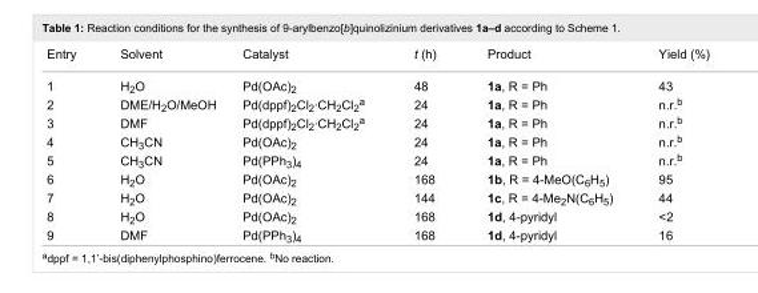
<table><tbody><tr><td>Entry</td><td>Solvent</td><td>Catalyst</td><td>t (h)</td><td>Product</td><td>Yield (%)</td></tr><tr><td>1</td><td>H<sub>2</sub>O</td><td>Pd(OAc)<sub>2</sub></td><td>48</td><td>1a, R = Ph</td><td>43</td></tr><tr><td>2</td><td>DME/H<sub>2</sub>O/MeOH</td><td>Pd(dppf)<sub>2</sub>Cl<sub>2</sub>·CH<sub>2</sub>Cl<sub>2</sub><sup>a</sup></td><td>24</td><td>1a, R = Ph</td><td>n.r.<sup>b</sup></td></tr><tr><td>3</td><td>DMF</td><td>Pd(dppf)<sub>2</sub>Cl<sub>2</sub>·CH<sub>2</sub>Cl<sub>2</sub><sup>a</sup></td><td>24</td><td>1a, R = Ph</td><td>n.r.<sup>b</sup></td></tr><tr><td>4</td><td>CH<sub>3</sub>CN</td><td>Pd(OAc)<sub>2</sub></td><td>24</td><td>1a, R = Ph</td><td>n.r.<sup>b</sup></td></tr><tr><td>5</td><td>CH<sub>3</sub>CN</td><td>Pd(PPh<sub>3</sub>)<sub>4</sub></td><td>24</td><td>1a, R = Ph</td><td>n.r.<sup>b</sup></td></tr><tr><td>6</td><td>H<sub>2</sub>O</td><td>Pd(OAc)<sub>2</sub></td><td>168</td><td>1b, R = 4-MeO(C<sub>6</sub>H<sub>5</sub>)</td><td>95</td></tr><tr><td>7</td><td>H<sub>2</sub>O</td><td>Pd(OAc)<sub>2</sub></td><td>144</td><td>1c, R = 4-Me<sub>2</sub>N(C<sub>6</sub>H<sub>5</sub>)</td><td>44</td></tr><tr><td>8</td><td>H<sub>2</sub>O</td><td>Pd(OAc)<sub>2</sub></td><td>168</td><td>1d, 4-pyridyl</td><td>&lt;2</td></tr><tr><td>9</td><td>DMF</td><td>Pd(PPh<sub>3</sub>)<sub>4</sub></td><td>168</td><td>1d, 4-pyridyl</td><td>16</td></tr></tbody></table>